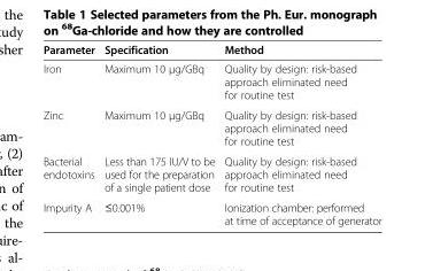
<table><thead><tr><td>Parameter</td><td>Specification</td><td>Method</td></tr></thead><tbody><tr><td>Iron</td><td>Maximum 10 μg/GBq</td><td>Quality by design: risk-based approach eliminated need for routine test</td></tr><tr><td>Zinc</td><td>Maximum 10 μg/GBq</td><td>Quality by design: risk-based approach eliminated need for routine test</td></tr><tr><td>Bacterial endotoxins</td><td>Less than 175 IU/V to be used for the preparation of a single patient dose</td><td>Quality by design: risk-based approach eliminated need for routine test</td></tr><tr><td>Impurity A</td><td>≤0.001%</td><td>Ionization chamber: performed at time of acceptance of generator</td></tr></tbody></table>